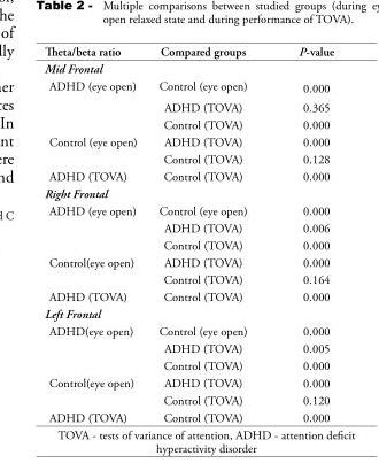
<table><thead><tr><td>Theta/beta ratio</td><td>Compared groups</td><td>P-value</td></tr></thead><tbody><tr><td colspan="3">Mid Frontal</td></tr><tr><td rowspan="3">ADHD (eye open)</td><td>Control (eye open)</td><td>0.000</td></tr><tr><td>ADHD (TOVA)</td><td>0.365</td></tr><tr><td>Control (TOVA)</td><td>0.000</td></tr><tr><td rowspan="2">Control (eye open)</td><td>ADHD (TOVA)</td><td>0.000</td></tr><tr><td>Control (TOVA)</td><td>0.128</td></tr><tr><td>ADHD (TOVA)</td><td>Control (TOVA)</td><td>0.000</td></tr><tr><td colspan="3">Right Frontal</td></tr><tr><td rowspan="3">ADHD (eye open)</td><td>Control (eye open)</td><td>0.000</td></tr><tr><td>ADHD (TOVA)</td><td>0.006</td></tr><tr><td>Control (TOVA)</td><td>0.000</td></tr><tr><td rowspan="2">Control(eye open)</td><td>ADHD (TOVA)</td><td>0.000</td></tr><tr><td>Control (TOVA)</td><td>0.164</td></tr><tr><td>ADHD (TOVA)</td><td>Control (TOVA)</td><td>0.000</td></tr><tr><td colspan="3">Left Frontal</td></tr><tr><td rowspan="3">ADHD(eye open)</td><td>Control (eye open)</td><td>0.000</td></tr><tr><td>ADHD (TOVA)</td><td>0.005</td></tr><tr><td>Control (TOVA)</td><td>0.000</td></tr><tr><td rowspan="2">Control(eye open)</td><td>ADHD (TOVA)</td><td>0.000</td></tr><tr><td>Control (TOVA)</td><td>0.120</td></tr><tr><td>ADHD (TOVA)</td><td>Control (TOVA)</td><td>0.000</td></tr></tbody></table>